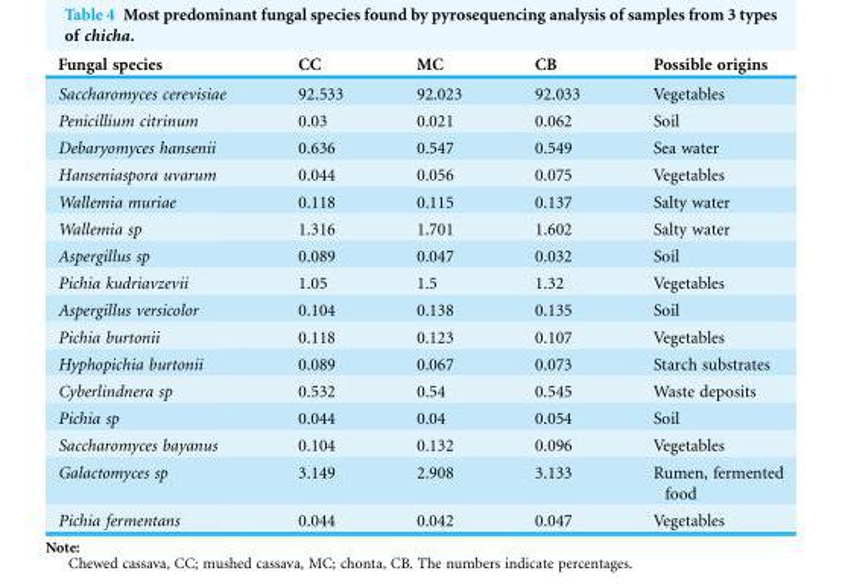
<table><thead><tr><td>Fungal species</td><td>CC</td><td>MC</td><td>CB</td><td>Possible origins</td></tr></thead><tbody><tr><td>Saccharomyces cerevisiae</td><td>92.533</td><td>92.023</td><td>92.033</td><td>Vegetables</td></tr><tr><td>Penicillium citrinum</td><td>0.03</td><td>0.021</td><td>0.062</td><td>Soil</td></tr><tr><td>Debaryomyces hansenii</td><td>0.636</td><td>0.547</td><td>0.549</td><td>Sea water</td></tr><tr><td>Hanseniaspora uvarum</td><td>0.044</td><td>0.056</td><td>0.075</td><td>Vegetables</td></tr><tr><td>Wallemia muriae</td><td>0.118</td><td>0.115</td><td>0.137</td><td>Salty water</td></tr><tr><td>Wallemia sp</td><td>1.316</td><td>1.701</td><td>1.602</td><td>Salty water</td></tr><tr><td>Aspergillus sp</td><td>0.089</td><td>0.047</td><td>0.032</td><td>Soil</td></tr><tr><td>Pichia kudriavzevii</td><td>1.05</td><td>1.5</td><td>1.32</td><td>Vegetables</td></tr><tr><td>Aspergillus versicolor</td><td>0.104</td><td>0.138</td><td>0.135</td><td>Soil</td></tr><tr><td>Pichia burtonii</td><td>0.118</td><td>0.123</td><td>0.107</td><td>Vegetables</td></tr><tr><td>Hyphopichia burtonii</td><td>0.089</td><td>0.067</td><td>0.073</td><td>Starch substrates</td></tr><tr><td>Cyberlindnera sp</td><td>0.532</td><td>0.54</td><td>0.545</td><td>Waste deposits</td></tr><tr><td>Pichia sp</td><td>0.044</td><td>0.04</td><td>0.054</td><td>Soil</td></tr><tr><td>Saccharomyces bayanus</td><td>0.104</td><td>0.132</td><td>0.096</td><td>Vegetables</td></tr><tr><td>Galactomyces sp</td><td>3.149</td><td>2.908</td><td>3.133</td><td>Rumen, fermented food</td></tr><tr><td>Pichia fermentans</td><td>0.044</td><td>0.042</td><td>0.047</td><td>Vegetables</td></tr></tbody></table>